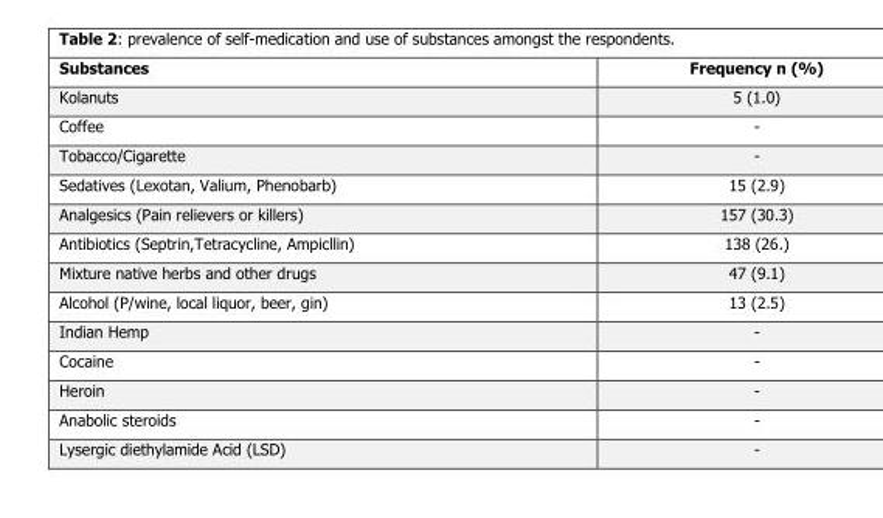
<table><thead><tr><td>Substances</td><td>Frequency n (%)</td></tr></thead><tbody><tr><td>Kolanuts</td><td>5 (1.0)</td></tr><tr><td>Coffee</td><td>-</td></tr><tr><td>Tobacco/Cigarette</td><td>-</td></tr><tr><td>Sedatives (Lexotan, Valium, Phenobarb)</td><td>15 (2.9)</td></tr><tr><td>Analgesics (Pain relievers or killers)</td><td>157 (30.3)</td></tr><tr><td>Antibiotics (Septrin,Tetracycline, Ampicllin)</td><td>138 (26.)</td></tr><tr><td>Mixture native herbs and other drugs</td><td>47 (9.1)</td></tr><tr><td>Alcohol (P/wine, local liquor, beer, gin)</td><td>13 (2.5)</td></tr><tr><td>Indian Hemp</td><td>-</td></tr><tr><td>Cocaine</td><td>-</td></tr><tr><td>Heroin</td><td>-</td></tr><tr><td>Anabolic steroids</td><td>-</td></tr><tr><td>Lysergic diethylamide Acid (LSD)</td><td>-</td></tr></tbody></table>